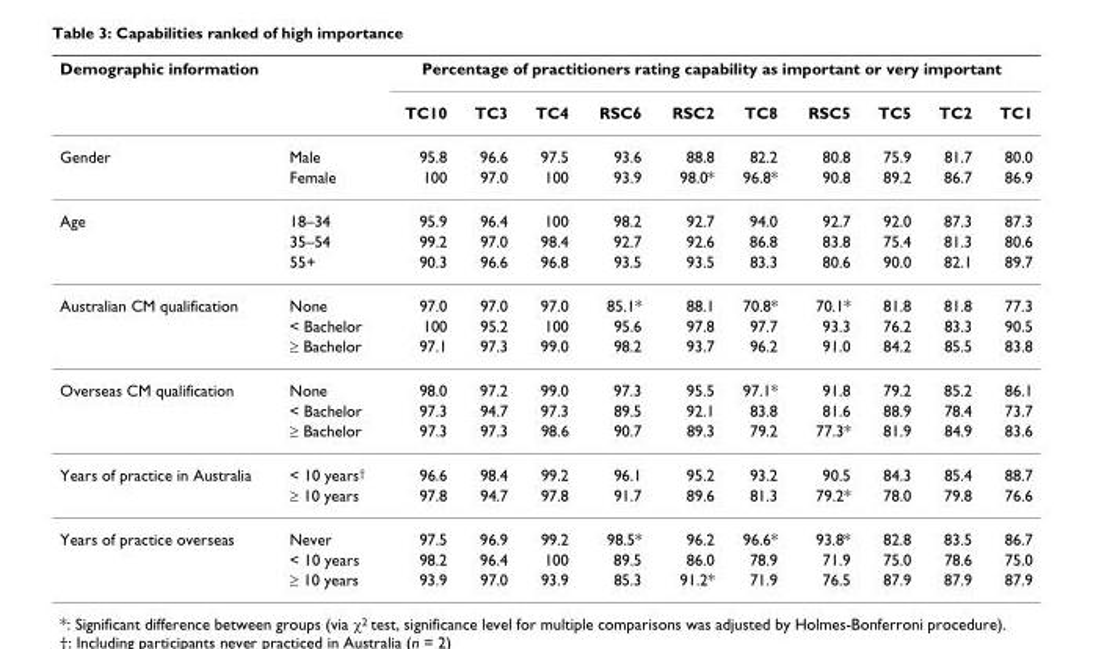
<table><thead><tr><td colspan="2">Demographic information</td><td colspan="10">Percentage of practitioners rating capability as important or very important</td></tr><tr><td></td><td></td><td>TC10</td><td>TC3</td><td>TC4</td><td>RSC6</td><td>RSC2</td><td>TC8</td><td>RSC5</td><td>TC5</td><td>TC2</td><td>TC1</td></tr></thead><tbody><tr><td rowspan="2">Gender</td><td>Male</td><td>95.8</td><td>96.6</td><td>97.5</td><td>93.6</td><td>88.8</td><td>82.2</td><td>80.8</td><td>75.9</td><td>81.7</td><td>80.0</td></tr><tr><td>Female</td><td>100</td><td>97.0</td><td>100</td><td>93.9</td><td>98.0*</td><td>96.8*</td><td>90.8</td><td>89.2</td><td>86.7</td><td>86.9</td></tr><tr><td rowspan="3">Age</td><td>18–34</td><td>95.9</td><td>96.4</td><td>100</td><td>98.2</td><td>92.7</td><td>94.0</td><td>92.7</td><td>92.0</td><td>87.3</td><td>87.3</td></tr><tr><td>35–54</td><td>99.2</td><td>97.0</td><td>98.4</td><td>92.7</td><td>92.6</td><td>86.8</td><td>83.8</td><td>75.4</td><td>81.3</td><td>80.6</td></tr><tr><td>55+</td><td>90.3</td><td>96.6</td><td>96.8</td><td>93.5</td><td>93.5</td><td>83.3</td><td>80.6</td><td>90.0</td><td>82.1</td><td>89.7</td></tr><tr><td rowspan="3">Australian CM qualification</td><td>None</td><td>97.0</td><td>97.0</td><td>97.0</td><td>85.1*</td><td>88.1</td><td>70.8*</td><td>70.1*</td><td>81.8</td><td>81.8</td><td>77.3</td></tr><tr><td>&lt; Bachelor</td><td>100</td><td>95.2</td><td>100</td><td>95.6</td><td>97.8</td><td>97.7</td><td>93.3</td><td>76.2</td><td>83.3</td><td>90.5</td></tr><tr><td>≥ Bachelor</td><td>97.1</td><td>97.3</td><td>99.0</td><td>98.2</td><td>93.7</td><td>96.2</td><td>91.0</td><td>84.2</td><td>85.5</td><td>83.8</td></tr><tr><td rowspan="3">Overseas CM qualification</td><td>None</td><td>98.0</td><td>97.2</td><td>99.0</td><td>97.3</td><td>95.5</td><td>97.1*</td><td>91.8</td><td>79.2</td><td>85.2</td><td>86.1</td></tr><tr><td>&lt; Bachelor</td><td>97.3</td><td>94.7</td><td>97.3</td><td>89.5</td><td>92.1</td><td>83.8</td><td>81.6</td><td>88.9</td><td>78.4</td><td>73.7</td></tr><tr><td>≥ Bachelor</td><td>97.3</td><td>97.3</td><td>98.6</td><td>90.7</td><td>89.3</td><td>79.2</td><td>77.3*</td><td>81.9</td><td>84.9</td><td>83.6</td></tr><tr><td rowspan="2">Years of practice in Australia</td><td>&lt; 10 years<sup>†</sup></td><td>96.6</td><td>98.4</td><td>99.2</td><td>96.1</td><td>95.2</td><td>93.2</td><td>90.5</td><td>84.3</td><td>85.4</td><td>88.7</td></tr><tr><td>≥ 10 years</td><td>97.8</td><td>94.7</td><td>97.8</td><td>91.7</td><td>89.6</td><td>81.3</td><td>79.2*</td><td>78.0</td><td>79.8</td><td>76.6</td></tr><tr><td rowspan="3">Years of practice overseas</td><td>Never</td><td>97.5</td><td>96.9</td><td>99.2</td><td>98.5*</td><td>96.2</td><td>96.6*</td><td>93.8*</td><td>82.8</td><td>83.5</td><td>86.7</td></tr><tr><td>&lt; 10 years</td><td>98.2</td><td>96.4</td><td>100</td><td>89.5</td><td>86.0</td><td>78.9</td><td>71.9</td><td>75.0</td><td>78.6</td><td>75.0</td></tr><tr><td>≥ 10 years</td><td>93.9</td><td>97.0</td><td>93.9</td><td>85.3</td><td>91.2*</td><td>71.9</td><td>76.5</td><td>87.9</td><td>87.9</td><td>87.9</td></tr></tbody></table>